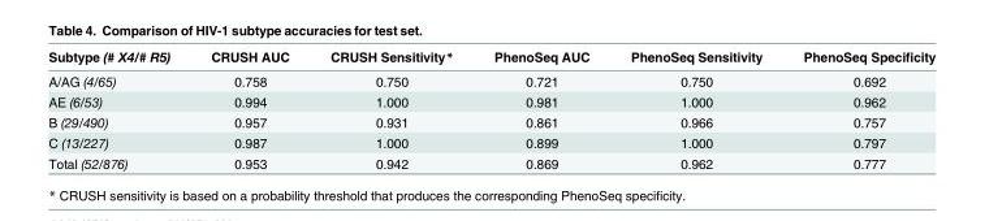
<table><thead><tr><td>Subtype (# X4/# R5)</td><td>CRUSH AUC</td><td>CRUSH Sensitivity*</td><td>PhenoSeq AUC</td><td>PhenoSeq Sensitivity</td><td>PhenoSeq Specificity</td></tr></thead><tbody><tr><td>A/AG (4/65)</td><td>0.758</td><td>0.750</td><td>0.721</td><td>0.750</td><td>0.692</td></tr><tr><td>AE (6/53)</td><td>0.994</td><td>1.000</td><td>0.981</td><td>1.000</td><td>0.962</td></tr><tr><td>B (29/490)</td><td>0.957</td><td>0.931</td><td>0.861</td><td>0.966</td><td>0.757</td></tr><tr><td>C (13/227)</td><td>0.987</td><td>1.000</td><td>0.899</td><td>1.000</td><td>0.797</td></tr><tr><td>Total (52/876)</td><td>0.953</td><td>0.942</td><td>0.869</td><td>0.962</td><td>0.777</td></tr></tbody></table>